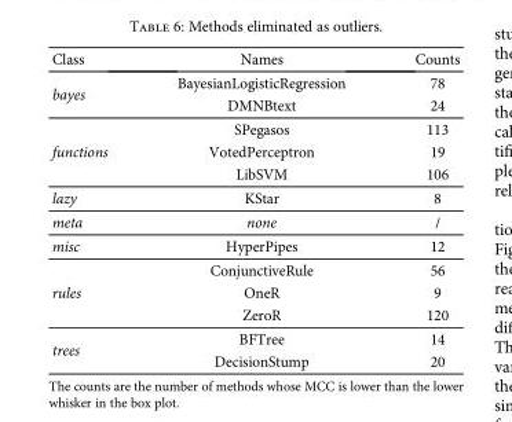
<table><thead><tr><td>Class</td><td>Names</td><td>Counts</td></tr></thead><tbody><tr><td rowspan="2">bayes</td><td>BayesianLogisticRegression</td><td>78</td></tr><tr><td>DMNBtext</td><td>24</td></tr><tr><td rowspan="3">functions</td><td>SPegasos</td><td>113</td></tr><tr><td>VotedPerceptron</td><td>19</td></tr><tr><td>LibSVM</td><td>106</td></tr><tr><td>lazy</td><td>KStar</td><td>8</td></tr><tr><td>meta</td><td>none</td><td>/</td></tr><tr><td>misc</td><td>HyperPipes</td><td>12</td></tr><tr><td rowspan="3">rules</td><td>ConjunctiveRule</td><td>56</td></tr><tr><td>OneR</td><td>9</td></tr><tr><td>ZeroR</td><td>120</td></tr><tr><td rowspan="2">trees</td><td>BFTree</td><td>14</td></tr><tr><td>DecisionStump</td><td>20</td></tr></tbody></table>